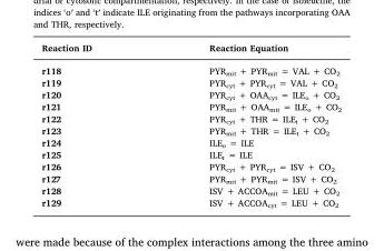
<table><thead><tr><td>Reaction ID</td><td>Reaction Equation</td></tr></thead><tbody><tr><td>r118</td><td>PYR<sub>mit</sub> + PYR<sub>mit</sub> = VAL + CO<sub>2</sub></td></tr><tr><td>r119</td><td>PYR<sub>cyt</sub> + PYR<sub>cyt</sub> = VAL + CO<sub>2</sub></td></tr><tr><td>r120</td><td>PYR<sub>cyt</sub> + OAA<sub>cyt</sub> = ILE<sub>o</sub> + CO<sub>2</sub></td></tr><tr><td>r121</td><td>PYR<sub>mit</sub> + OAA<sub>mit</sub> = ILE<sub>o</sub> + CO<sub>2</sub></td></tr><tr><td>r122</td><td>PYR<sub>cyt</sub> + THR = ILE<sub>t</sub> + CO<sub>2</sub></td></tr><tr><td>r123</td><td>PYR<sub>mit</sub> + THR = ILE<sub>t</sub> + CO<sub>2</sub></td></tr><tr><td>r124</td><td>ILE<sub>o</sub> = ILE</td></tr><tr><td>r125</td><td>ILE<sub>t</sub> = ILE</td></tr><tr><td>r126</td><td>PYR<sub>cyt</sub> + PYR<sub>cyt</sub> = ISV + CO<sub>2</sub></td></tr><tr><td>r127</td><td>PYR<sub>mit</sub> + PYR<sub>mit</sub> = ISV + CO<sub>2</sub></td></tr><tr><td>r128</td><td>ISV + ACCOA<sub>mit</sub> = LEU + CO<sub>2</sub></td></tr><tr><td>r129</td><td>ISV + ACCOA<sub>cyt</sub> = LEU + CO<sub>2</sub></td></tr></tbody></table>